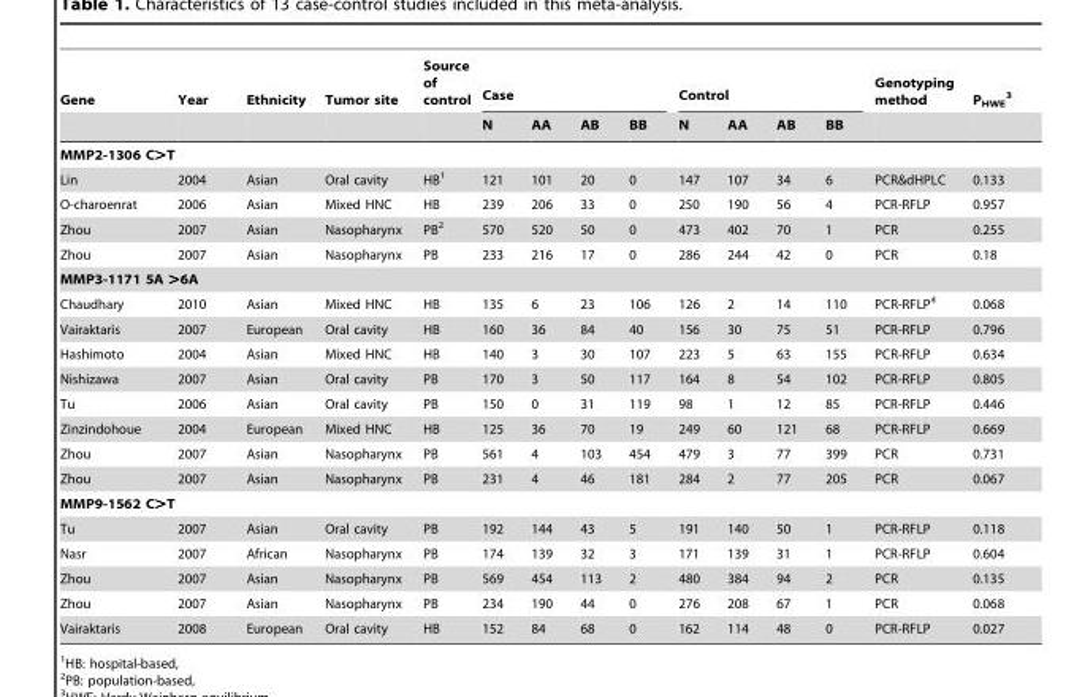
<table><thead><tr><td rowspan="2">Gene</td><td rowspan="2">Year</td><td rowspan="2">Ethnicity</td><td rowspan="2">Tumor site</td><td rowspan="2">Source of control</td><td colspan="4">Case</td><td colspan="4">Control</td><td rowspan="2">Genotyping method</td><td rowspan="2">PHWE</td></tr><tr><td>N</td><td>AA</td><td>AB</td><td>BB</td><td>N</td><td>AA</td><td>AB</td><td>BB</td></tr></thead><tbody><tr><td colspan="15">MMP2-1306 C&gt;T</td></tr><tr><td>Lin</td><td>2004</td><td>Asian</td><td>Oral cavity</td><td>HB<sup>1</sup></td><td>121</td><td>101</td><td>20</td><td>0</td><td>147</td><td>107</td><td>34</td><td>6</td><td>PCR&amp;dHPLC</td><td>0.133</td></tr><tr><td>O-charoenrat</td><td>2006</td><td>Asian</td><td>Mixed HNC</td><td>HB</td><td>239</td><td>206</td><td>33</td><td>0</td><td>250</td><td>190</td><td>56</td><td>4</td><td>PCR-RFLP</td><td>0.957</td></tr><tr><td>Zhou</td><td>2007</td><td>Asian</td><td>Nasopharynx</td><td>PB<sup>2</sup></td><td>570</td><td>520</td><td>50</td><td>0</td><td>473</td><td>402</td><td>70</td><td>1</td><td>PCR</td><td>0.255</td></tr><tr><td>Zhou</td><td>2007</td><td>Asian</td><td>Nasopharynx</td><td>PB</td><td>233</td><td>216</td><td>17</td><td>0</td><td>286</td><td>244</td><td>42</td><td>0</td><td>PCR</td><td>0.18</td></tr><tr><td colspan="15">MMP3-1171 5A &gt;6A</td></tr><tr><td>Chaudhary</td><td>2010</td><td>Asian</td><td>Mixed HNC</td><td>HB</td><td>135</td><td>6</td><td>23</td><td>106</td><td>126</td><td>2</td><td>14</td><td>110</td><td>PCR-RFLP<sup>4</sup></td><td>0.068</td></tr><tr><td>Vairaktaris</td><td>2007</td><td>European</td><td>Oral cavity</td><td>HB</td><td>160</td><td>36</td><td>84</td><td>40</td><td>156</td><td>30</td><td>75</td><td>51</td><td>PCR-RFLP</td><td>0.796</td></tr><tr><td>Hashimoto</td><td>2004</td><td>Asian</td><td>Mixed HNC</td><td>HB</td><td>140</td><td>3</td><td>30</td><td>107</td><td>223</td><td>5</td><td>63</td><td>155</td><td>PCR-RFLP</td><td>0.634</td></tr><tr><td>Nishizawa</td><td>2007</td><td>Asian</td><td>Oral cavity</td><td>PB</td><td>170</td><td>3</td><td>50</td><td>117</td><td>164</td><td>8</td><td>54</td><td>102</td><td>PCR-RFLP</td><td>0.805</td></tr><tr><td>Tu</td><td>2006</td><td>Asian</td><td>Oral cavity</td><td>PB</td><td>150</td><td>0</td><td>31</td><td>119</td><td>98</td><td>1</td><td>12</td><td>85</td><td>PCR-RFLP</td><td>0.446</td></tr><tr><td>Zinzindohoue</td><td>2004</td><td>European</td><td>Mixed HNC</td><td>HB</td><td>125</td><td>36</td><td>70</td><td>19</td><td>249</td><td>60</td><td>121</td><td>68</td><td>PCR-RFLP</td><td>0.669</td></tr><tr><td>Zhou</td><td>2007</td><td>Asian</td><td>Nasopharynx</td><td>PB</td><td>561</td><td>4</td><td>103</td><td>454</td><td>479</td><td>3</td><td>77</td><td>399</td><td>PCR</td><td>0.731</td></tr><tr><td>Zhou</td><td>2007</td><td>Asian</td><td>Nasopharynx</td><td>PB</td><td>231</td><td>4</td><td>46</td><td>181</td><td>284</td><td>2</td><td>77</td><td>205</td><td>PCR</td><td>0.067</td></tr><tr><td colspan="15">MMP9-1562 C&gt;T</td></tr><tr><td>Tu</td><td>2007</td><td>Asian</td><td>Oral cavity</td><td>PB</td><td>192</td><td>144</td><td>43</td><td>5</td><td>191</td><td>140</td><td>50</td><td>1</td><td>PCR-RFLP</td><td>0.118</td></tr><tr><td>Nasr</td><td>2007</td><td>African</td><td>Nasopharynx</td><td>PB</td><td>174</td><td>139</td><td>32</td><td>3</td><td>171</td><td>139</td><td>31</td><td>1</td><td>PCR-RFLP</td><td>0.604</td></tr><tr><td>Zhou</td><td>2007</td><td>Asian</td><td>Nasopharynx</td><td>PB</td><td>569</td><td>454</td><td>113</td><td>2</td><td>480</td><td>384</td><td>94</td><td>2</td><td>PCR</td><td>0.135</td></tr><tr><td>Zhou</td><td>2007</td><td>Asian</td><td>Nasopharynx</td><td>PB</td><td>234</td><td>190</td><td>44</td><td>0</td><td>276</td><td>208</td><td>67</td><td>1</td><td>PCR</td><td>0.068</td></tr><tr><td>Vairaktaris</td><td>2008</td><td>European</td><td>Oral cavity</td><td>HB</td><td>152</td><td>84</td><td>68</td><td>0</td><td>162</td><td>114</td><td>48</td><td>0</td><td>PCR-RFLP</td><td>0.027</td></tr></tbody></table>